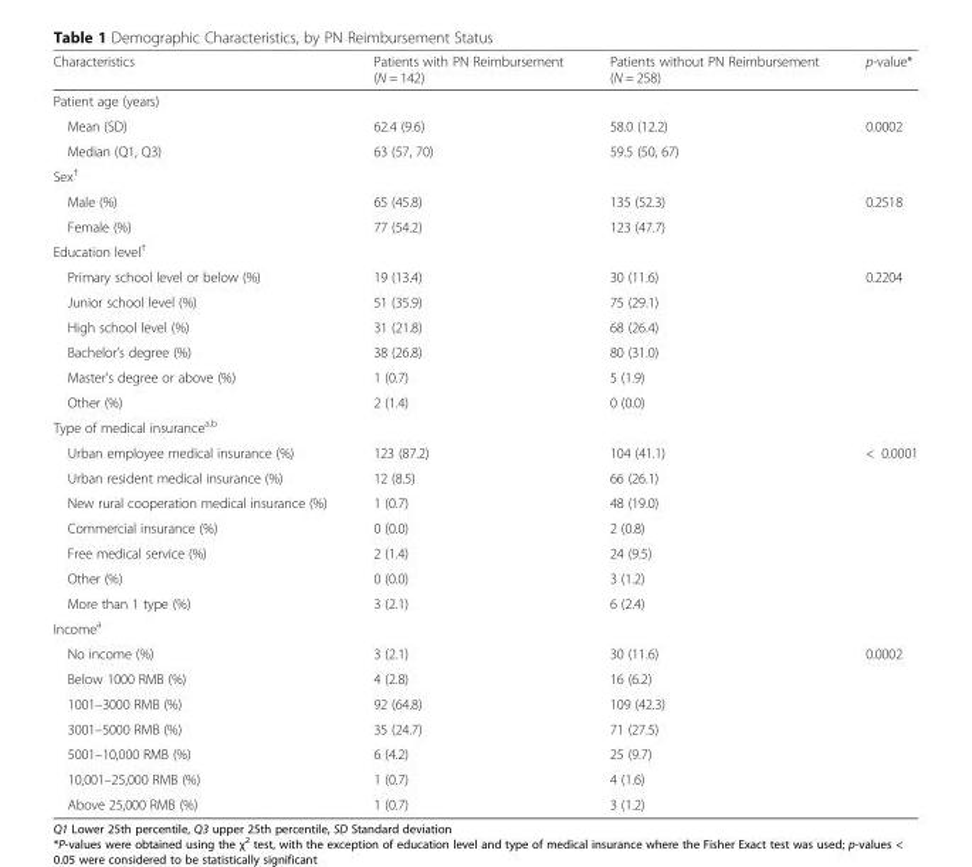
<table><thead><tr><td>Characteristics</td><td>Patients with PN Reimbursement (N = 142)</td><td>Patients without PN Reimbursement (N = 258)</td><td>p-value*</td></tr></thead><tbody><tr><td colspan="4">Patient age (years)</td></tr><tr><td>Mean (SD)</td><td>62.4 (9.6)</td><td>58.0 (12.2)</td><td rowspan="2">0.0002</td></tr><tr><td>Median (Q1, Q3)</td><td>63 (57, 70)</td><td>59.5 (50, 67)</td></tr><tr><td colspan="4">Sex<sup>†</sup></td></tr><tr><td>Male (%)</td><td>65 (45.8)</td><td>135 (52.3)</td><td rowspan="2">0.2518</td></tr><tr><td>Female (%)</td><td>77 (54.2)</td><td>123 (47.7)</td></tr><tr><td colspan="4">Education level<sup>†</sup></td></tr><tr><td>Primary school level or below (%)</td><td>19 (13.4)</td><td>30 (11.6)</td><td rowspan="6">0.2204</td></tr><tr><td>Junior school level (%)</td><td>51 (35.9)</td><td>75 (29.1)</td></tr><tr><td>High school level (%)</td><td>31 (21.8)</td><td>68 (26.4)</td></tr><tr><td>Bachelor’s degree (%)</td><td>38 (26.8)</td><td>80 (31.0)</td></tr><tr><td>Master’s degree or above (%)</td><td>1 (0.7)</td><td>5 (1.9)</td></tr><tr><td>Other (%)</td><td>2 (1.4)</td><td>0 (0.0)</td></tr><tr><td colspan="4">Type of medical insurance<sup>a,b</sup></td></tr><tr><td>Urban employee medical insurance (%)</td><td>123 (87.2)</td><td>104 (41.1)</td><td rowspan="7">&lt; 0.0001</td></tr><tr><td>Urban resident medical insurance (%)</td><td>12 (8.5)</td><td>66 (26.1)</td></tr><tr><td>New rural cooperation medical insurance (%)</td><td>1 (0.7)</td><td>48 (19.0)</td></tr><tr><td>Commercial insurance (%)</td><td>0 (0.0)</td><td>2 (0.8)</td></tr><tr><td>Free medical service (%)</td><td>2 (1.4)</td><td>24 (9.5)</td></tr><tr><td>Other (%)</td><td>0 (0.0)</td><td>3 (1.2)</td></tr><tr><td>More than 1 type (%)</td><td>3 (2.1)</td><td>6 (2.4)</td></tr><tr><td colspan="4">Income<sup>a</sup></td></tr><tr><td>No income (%)</td><td>3 (2.1)</td><td>30 (11.6)</td><td rowspan="7">0.0002</td></tr><tr><td>Below 1000 RMB (%)</td><td>4 (2.8)</td><td>16 (6.2)</td></tr><tr><td>1001–3000 RMB (%)</td><td>92 (64.8)</td><td>109 (42.3)</td></tr><tr><td>3001–5000 RMB (%)</td><td>35 (24.7)</td><td>71 (27.5)</td></tr><tr><td>5001–10,000 RMB (%)</td><td>6 (4.2)</td><td>25 (9.7)</td></tr><tr><td>10,001–25,000 RMB (%)</td><td>1 (0.7)</td><td>4 (1.6)</td></tr><tr><td>Above 25,000 RMB (%)</td><td>1 (0.7)</td><td>3 (1.2)</td></tr></tbody></table>